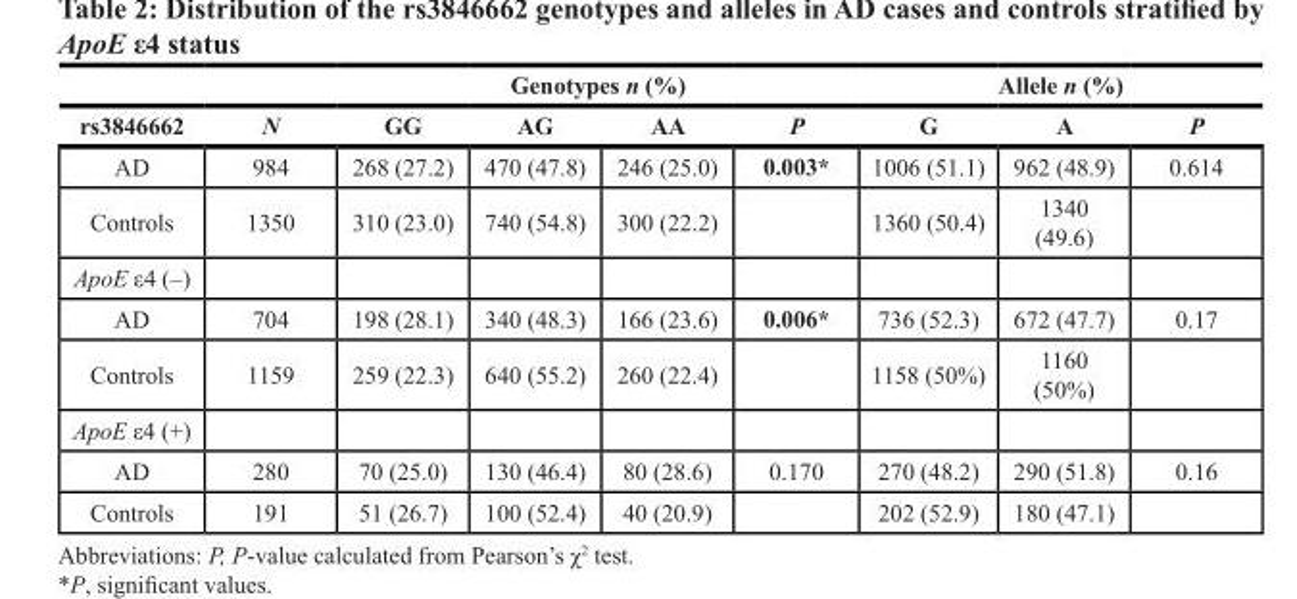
<table><thead><tr><td rowspan="2">rs3846662</td><td rowspan="2">N</td><td colspan="4">Genotypes n (%)</td><td colspan="3">Allele n (%)</td></tr><tr><td>GG</td><td>AG</td><td>AA</td><td>P</td><td>G</td><td>A</td><td>P</td></tr></thead><tbody><tr><td>AD</td><td>984</td><td>268 (27.2)</td><td>470 (47.8)</td><td>246 (25.0)</td><td>0.003*</td><td>1006 (51.1)</td><td>962 (48.9)</td><td>0.614</td></tr><tr><td>Controls</td><td>1350</td><td>310 (23.0)</td><td>740 (54.8)</td><td>300 (22.2)</td><td></td><td>1360 (50.4)</td><td>1340 (49.6)</td><td></td></tr><tr><td colspan="9">ApoE ε4 (–)</td></tr><tr><td>AD</td><td>704</td><td>198 (28.1)</td><td>340 (48.3)</td><td>166 (23.6)</td><td>0.006*</td><td>736 (52.3)</td><td>672 (47.7)</td><td>0.17</td></tr><tr><td>Controls</td><td>1159</td><td>259 (22.3)</td><td>640 (55.2)</td><td>260 (22.4)</td><td></td><td>1158 (50%)</td><td>1160 (50%)</td><td></td></tr><tr><td colspan="9">ApoE ε4 (+)</td></tr><tr><td>AD</td><td>280</td><td>70 (25.0)</td><td>130 (46.4)</td><td>80 (28.6)</td><td>0.170</td><td>270 (48.2)</td><td>290 (51.8)</td><td>0.16</td></tr><tr><td>Controls</td><td>191</td><td>51 (26.7)</td><td>100 (52.4)</td><td>40 (20.9)</td><td></td><td>202 (52.9)</td><td>180 (47.1)</td><td></td></tr></tbody></table>